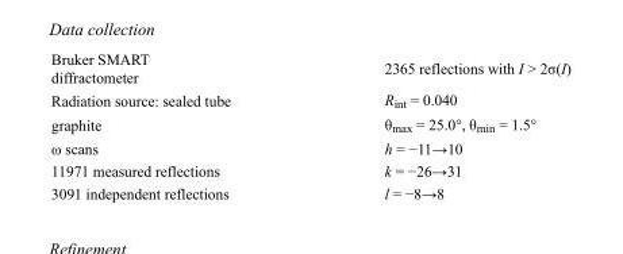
<table><tbody><tr><td>Bruker SMART diffractometer</td><td>2365 reflections with I &gt; 2σ(I)</td></tr><tr><td>Radiation source: sealed tube</td><td>R<sub>int</sub> = 0.040</td></tr><tr><td>graphite</td><td>θ<sub>max</sub> = 25.0°, θ<sub>min</sub> = 1.5°</td></tr><tr><td>ω scans</td><td>h = −11→10</td></tr><tr><td>11971 measured reflections</td><td>k = −26→31</td></tr><tr><td>3091 independent reflections</td><td>l = −8→8</td></tr></tbody></table>